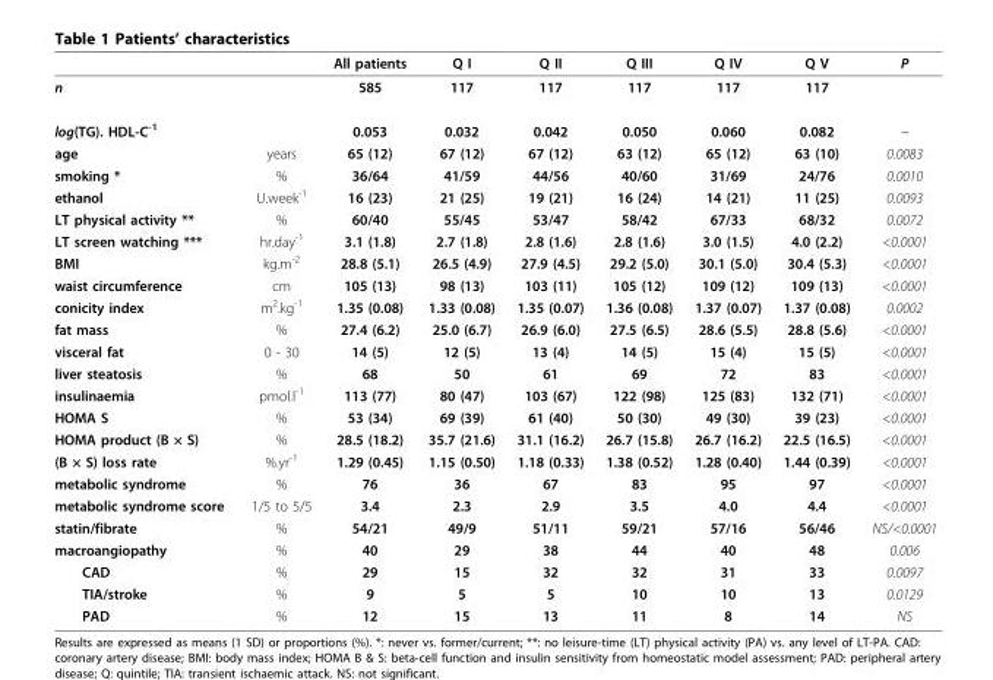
<table><thead><tr><td></td><td></td><td>All patients</td><td>Q I</td><td>Q II</td><td>Q III</td><td>Q IV</td><td>Q V</td><td>P</td></tr></thead><tbody><tr><td>n</td><td></td><td>585</td><td>117</td><td>117</td><td>117</td><td>117</td><td>117</td><td></td></tr><tr><td>log(TG). HDL-C<sup>-1</sup></td><td></td><td>0.053</td><td>0.032</td><td>0.042</td><td>0.050</td><td>0.060</td><td>0.082</td><td>~</td></tr><tr><td>age</td><td>years</td><td>65 (12)</td><td>67 (12)</td><td>67 (12)</td><td>63 (12)</td><td>65 (12)</td><td>63 (10)</td><td>0.0083</td></tr><tr><td>smoking *</td><td>%</td><td>36/64</td><td>41/59</td><td>44/56</td><td>40/60</td><td>31/69</td><td>24/76</td><td>0.0010</td></tr><tr><td>ethanol</td><td>U.week<sup>-1</sup></td><td>16 (23)</td><td>21 (25)</td><td>19 (21)</td><td>16 (24)</td><td>14 (21)</td><td>11 (25)</td><td>0.0093</td></tr><tr><td>LT physical activity **</td><td>%</td><td>60/40</td><td>55/45</td><td>53/47</td><td>58/42</td><td>67/33</td><td>68/32</td><td>0.0072</td></tr><tr><td>LT screen watching ***</td><td>hr.day<sup>-1</sup></td><td>3.1 (1.8)</td><td>2.7 (1.8)</td><td>2.8 (1.6)</td><td>2.8 (1.6)</td><td>3.0 (1.5)</td><td>4.0 (2.2)</td><td>&lt;0.0001</td></tr><tr><td>BMI</td><td>kg.m<sup>-2</sup></td><td>28.8 (5.1)</td><td>26.5 (4.9)</td><td>27.9 (4.5)</td><td>29.2 (5.0)</td><td>30.1 (5.0)</td><td>30.4 (5.3)</td><td>&lt;0.0001</td></tr><tr><td>waist circumference</td><td>cm</td><td>105 (13)</td><td>98 (13)</td><td>103 (11)</td><td>105 (12)</td><td>109 (12)</td><td>109 (13)</td><td>&lt;0.0001</td></tr><tr><td>conicity index</td><td>m<sup>2</sup>.kg<sup>-1</sup></td><td>1.35 (0.08)</td><td>1.33 (0.08)</td><td>1.35 (0.07)</td><td>1.36 (0.08)</td><td>1.37 (0.07)</td><td>1.37 (0.08)</td><td>0.0002</td></tr><tr><td>fat mass</td><td>%</td><td>27.4 (6.2)</td><td>25.0 (6.7)</td><td>26.9 (6.0)</td><td>27.5 (6.5)</td><td>28.6 (5.5)</td><td>28.8 (5.6)</td><td>&lt;0.0001</td></tr><tr><td>visceral fat</td><td>0 - 30</td><td>14 (5)</td><td>12 (5)</td><td>13 (4)</td><td>14 (5)</td><td>15 (4)</td><td>15 (5)</td><td>&lt;0.0001</td></tr><tr><td>liver steatosis</td><td>%</td><td>68</td><td>50</td><td>61</td><td>69</td><td>72</td><td>83</td><td>&lt;0.0001</td></tr><tr><td>insulinaemia</td><td>pmol.l<sup>-1</sup></td><td>113 (77)</td><td>80 (47)</td><td>103 (67)</td><td>122 (98)</td><td>125 (83)</td><td>132 (71)</td><td>&lt;0.0001</td></tr><tr><td>HOMA S</td><td>%</td><td>53 (34)</td><td>69 (39)</td><td>61 (40)</td><td>50 (30)</td><td>49 (30)</td><td>39 (23)</td><td>&lt;0.0001</td></tr><tr><td>HOMA product (B × S)</td><td>%</td><td>28.5 (18.2)</td><td>35.7 (21.6)</td><td>31.1 (16.2)</td><td>26.7 (15.8)</td><td>26.7 (16.2)</td><td>22.5 (16.5)</td><td>&lt;0.0001</td></tr><tr><td>(B × S) loss rate</td><td>%.yr<sup>-1</sup></td><td>1.29 (0.45)</td><td>1.15 (0.50)</td><td>1.18 (0.33)</td><td>1.38 (0.52)</td><td>1.28 (0.40)</td><td>1.44 (0.39)</td><td>&lt;0.0001</td></tr><tr><td>metabolic syndrome</td><td>%</td><td>76</td><td>36</td><td>67</td><td>83</td><td>95</td><td>97</td><td>&lt;0.0001</td></tr><tr><td>metabolic syndrome score</td><td>1/5 to 5/5</td><td>3.4</td><td>2.3</td><td>2.9</td><td>3.5</td><td>4.0</td><td>4.4</td><td>&lt;0.0001</td></tr><tr><td>statin/fibrate</td><td>%</td><td>54/21</td><td>49/9</td><td>51/11</td><td>59/21</td><td>57/16</td><td>56/46</td><td>NS/&lt;0.0001</td></tr><tr><td>macroangiopathy</td><td>%</td><td>40</td><td>29</td><td>38</td><td>44</td><td>40</td><td>48</td><td>0.006</td></tr><tr><td>CAD</td><td>%</td><td>29</td><td>15</td><td>32</td><td>32</td><td>31</td><td>33</td><td>0.0097</td></tr><tr><td>TIA/stroke</td><td>%</td><td>9</td><td>5</td><td>5</td><td>10</td><td>10</td><td>13</td><td>0.0129</td></tr><tr><td>PAD</td><td>%</td><td>12</td><td>15</td><td>13</td><td>11</td><td>8</td><td>14</td><td>NS</td></tr></tbody></table>